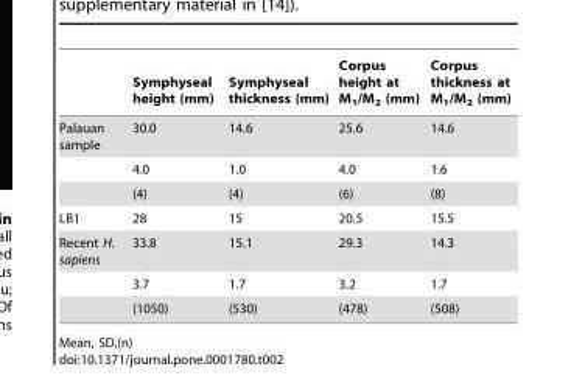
<table><thead><tr><td></td><td>Symphyseal height (mm)</td><td>Symphyseal thickness (mm)</td><td>Corpus height at M<sub>1</sub>/M<sub>2</sub> (mm)</td><td>Corpus thickness at M<sub>1</sub>/M<sub>2</sub> (mm)</td></tr></thead><tbody><tr><td rowspan="3">Palauan sample</td><td>30.0</td><td>14.6</td><td>25.6</td><td>14.6</td></tr><tr><td>4.0</td><td>1.0</td><td>4.0</td><td>1.6</td></tr><tr><td>(4)</td><td>(4)</td><td>(6)</td><td>(8)</td></tr><tr><td>LB1</td><td>28</td><td>15</td><td>20.5</td><td>15.5</td></tr><tr><td rowspan="3">Recent H. sapiens</td><td>33.8</td><td>15.1</td><td>29.3</td><td>14.3</td></tr><tr><td>3.7</td><td>1.7</td><td>3.2</td><td>1.7</td></tr><tr><td>(1050)</td><td>(530)</td><td>(478)</td><td>(508)</td></tr></tbody></table>